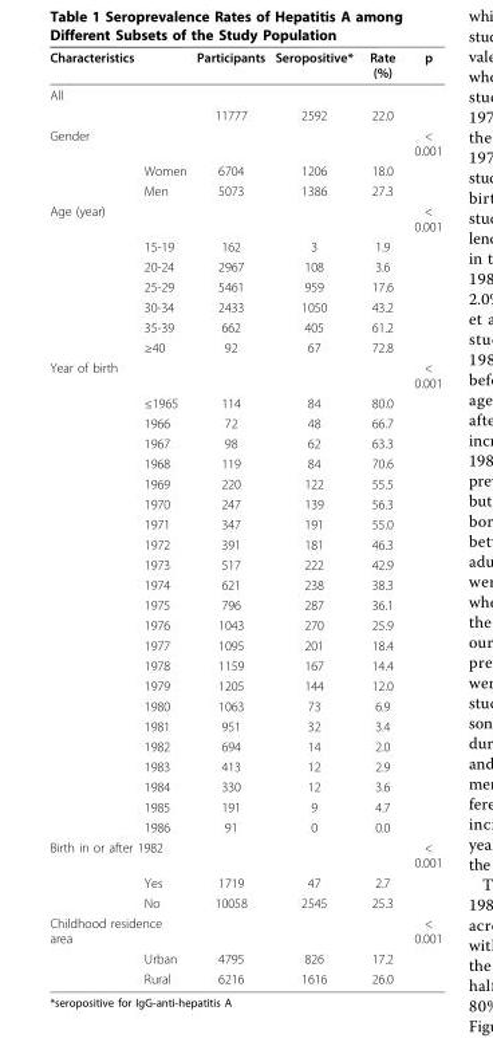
<table><thead><tr><td>Characteristics</td><td></td><td>Participants</td><td>Seropositive*</td><td>Rate (%)</td><td>p</td></tr></thead><tbody><tr><td colspan="6">All</td></tr><tr><td></td><td></td><td>11777</td><td>2592</td><td>22.0</td><td></td></tr><tr><td rowspan="3">Gender</td><td></td><td></td><td></td><td></td><td>&lt; 0.001</td></tr><tr><td>Women</td><td>6704</td><td>1206</td><td>18.0</td><td></td></tr><tr><td>Men</td><td>5073</td><td>1386</td><td>27.3</td><td></td></tr><tr><td rowspan="7">Age (year)</td><td></td><td></td><td></td><td></td><td>&lt; 0.001</td></tr><tr><td>15-19</td><td>162</td><td>3</td><td>1.9</td><td></td></tr><tr><td>20-24</td><td>2967</td><td>108</td><td>3.6</td><td></td></tr><tr><td>25-29</td><td>5461</td><td>959</td><td>17.6</td><td></td></tr><tr><td>30-34</td><td>2433</td><td>1050</td><td>43.2</td><td></td></tr><tr><td>35-39</td><td>662</td><td>405</td><td>61.2</td><td></td></tr><tr><td>≥40</td><td>92</td><td>67</td><td>72.8</td><td></td></tr><tr><td rowspan="23">Year of birth</td><td></td><td></td><td></td><td></td><td>&lt; 0.001</td></tr><tr><td>≤1965</td><td>114</td><td>84</td><td>80.0</td><td></td></tr><tr><td>1966</td><td>72</td><td>48</td><td>66.7</td><td></td></tr><tr><td>1967</td><td>98</td><td>62</td><td>63.3</td><td></td></tr><tr><td>1968</td><td>119</td><td>84</td><td>70.6</td><td></td></tr><tr><td>1969</td><td>220</td><td>122</td><td>55.5</td><td></td></tr><tr><td>1970</td><td>247</td><td>139</td><td>56.3</td><td></td></tr><tr><td>1971</td><td>347</td><td>191</td><td>55.0</td><td></td></tr><tr><td>1972</td><td>391</td><td>181</td><td>46.3</td><td></td></tr><tr><td>1973</td><td>517</td><td>222</td><td>42.9</td><td></td></tr><tr><td>1974</td><td>621</td><td>238</td><td>38.3</td><td></td></tr><tr><td>1975</td><td>796</td><td>287</td><td>36.1</td><td></td></tr><tr><td>1976</td><td>1043</td><td>270</td><td>25.9</td><td></td></tr><tr><td>1977</td><td>1095</td><td>201</td><td>18.4</td><td></td></tr><tr><td>1978</td><td>1159</td><td>167</td><td>14.4</td><td></td></tr><tr><td>1979</td><td>1205</td><td>144</td><td>12.0</td><td></td></tr><tr><td>1980</td><td>1063</td><td>73</td><td>6.9</td><td></td></tr><tr><td>1981</td><td>951</td><td>32</td><td>3.4</td><td></td></tr><tr><td>1982</td><td>694</td><td>14</td><td>2.0</td><td></td></tr><tr><td>1983</td><td>413</td><td>12</td><td>2.9</td><td></td></tr><tr><td>1984</td><td>330</td><td>12</td><td>3.6</td><td></td></tr><tr><td>1985</td><td>191</td><td>9</td><td>4.7</td><td></td></tr><tr><td>1986</td><td>91</td><td>0</td><td>0.0</td><td></td></tr><tr><td colspan="2">Birth in or after 1982</td><td></td><td></td><td></td><td>&lt; 0.001</td></tr><tr><td></td><td>Yes</td><td>1719</td><td>47</td><td>2.7</td><td></td></tr><tr><td></td><td>No</td><td>10058</td><td>2545</td><td>25.3</td><td></td></tr><tr><td colspan="2">Childhood residence area</td><td></td><td></td><td></td><td>&lt; 0.001</td></tr><tr><td></td><td>Urban</td><td>4795</td><td>826</td><td>17.2</td><td></td></tr><tr><td></td><td>Rural</td><td>6216</td><td>1616</td><td>26.0</td><td></td></tr></tbody></table>